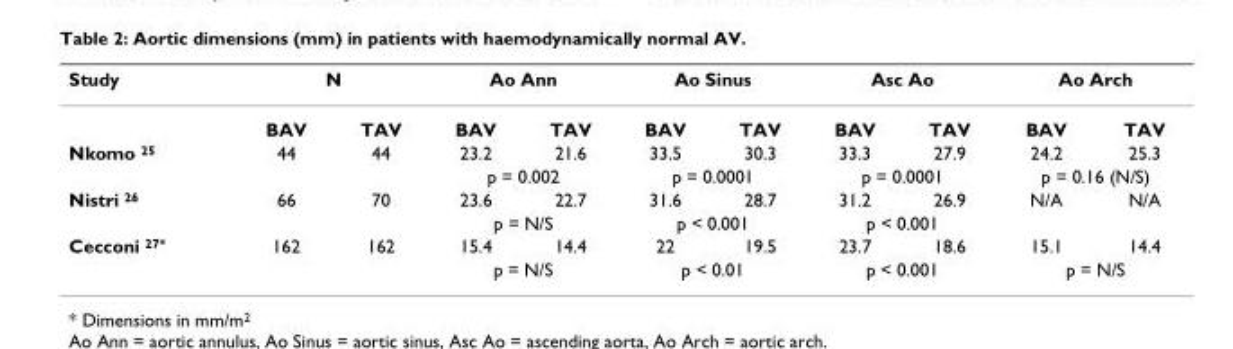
<table><thead><tr><td rowspan="2">Study</td><td colspan="2">N</td><td colspan="2">Ao Ann</td><td colspan="2">Ao Sinus</td><td colspan="2">Asc Ao</td><td colspan="2">Ao Arch</td></tr><tr><td>BAV</td><td>TAV</td><td>BAV</td><td>TAV</td><td>BAV</td><td>TAV</td><td>BAV</td><td>TAV</td><td>BAV</td><td>TAV</td></tr></thead><tbody><tr><td rowspan="2">Nkomo <sup>25</sup></td><td>44</td><td>44</td><td>23.2</td><td>21.6</td><td>33.5</td><td>30.3</td><td>33.3</td><td>27.9</td><td>24.2</td><td>25.3</td></tr><tr><td></td><td></td><td colspan="2">p = 0.002</td><td colspan="2">p = 0.0001</td><td colspan="2">p = 0.0001</td><td colspan="2">p = 0.16 (N/S)</td></tr><tr><td rowspan="2">Nistri <sup>26</sup></td><td>66</td><td>70</td><td>23.6</td><td>22.7</td><td>31.6</td><td>28.7</td><td>31.2</td><td>26.9</td><td>N/A</td><td>N/A</td></tr><tr><td></td><td></td><td colspan="2">p = N/S</td><td colspan="2">p &lt; 0.001</td><td colspan="2">p &lt; 0.001</td><td></td><td></td></tr><tr><td rowspan="2">Cecconi <sup>27*</sup></td><td>162</td><td>162</td><td>15.4</td><td>14.4</td><td>22</td><td>19.5</td><td>23.7</td><td>18.6</td><td>15.1</td><td>14.4</td></tr><tr><td></td><td></td><td colspan="2">p = N/S</td><td colspan="2">p &lt; 0.01</td><td colspan="2">p &lt; 0.001</td><td colspan="2">p = N/S</td></tr></tbody></table>